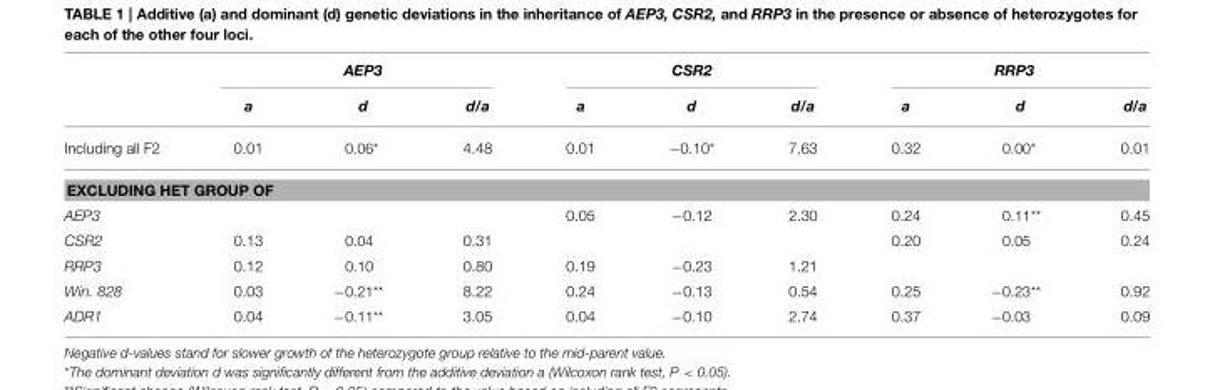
<table><thead><tr><td rowspan="2"></td><td colspan="3">AEP3</td><td colspan="3">CSR2</td><td colspan="3">RRP3</td></tr><tr><td>a</td><td>d</td><td>d/a</td><td>a</td><td>d</td><td>d/a</td><td>a</td><td>d</td><td>d/a</td></tr></thead><tbody><tr><td>Including all F2</td><td>0.01</td><td>0.06*</td><td>4.48</td><td>0.01</td><td>−0.10*</td><td>7.63</td><td>0.32</td><td>0.00*</td><td>0.01</td></tr><tr><td colspan="10">EXCLUDING HET GROUP OF</td></tr><tr><td>AEP3</td><td></td><td></td><td></td><td>0.05</td><td>−0.12</td><td>2.30</td><td>0.24</td><td>0.11**</td><td>0.45</td></tr><tr><td>CSR2</td><td>0.13</td><td>0.04</td><td>0.31</td><td></td><td></td><td></td><td>0.20</td><td>0.05</td><td>0.24</td></tr><tr><td>RRP3</td><td>0.12</td><td>0.10</td><td>0.80</td><td>0.19</td><td>−0.23</td><td>1.21</td><td></td><td></td><td></td></tr><tr><td>Win. 828</td><td>0.03</td><td>−0.21**</td><td>8.22</td><td>0.24</td><td>−0.13</td><td>0.54</td><td>0.25</td><td>−0.23**</td><td>0.92</td></tr><tr><td>ADR1</td><td>0.04</td><td>−0.11**</td><td>3.05</td><td>0.04</td><td>−0.10</td><td>2.74</td><td>0.37</td><td>−0.03</td><td>0.09</td></tr></tbody></table>